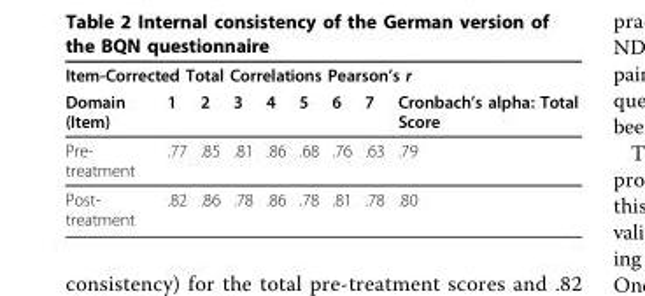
<table><thead><tr><td colspan="9">Item-Corrected Total Correlations Pearson’s r</td></tr><tr><td>Domain (Item)</td><td>1</td><td>2</td><td>3</td><td>4</td><td>5</td><td>6</td><td>7</td><td>Cronbach’s alpha: Total Score</td></tr></thead><tbody><tr><td>Pre- treatment</td><td>.77</td><td>.85</td><td>.81</td><td>.86</td><td>.68</td><td>.76</td><td>.63</td><td>.79</td></tr><tr><td>Post- treatment</td><td>.82</td><td>.86</td><td>.78</td><td>.86</td><td>.78</td><td>.81</td><td>.78</td><td>.80</td></tr></tbody></table>